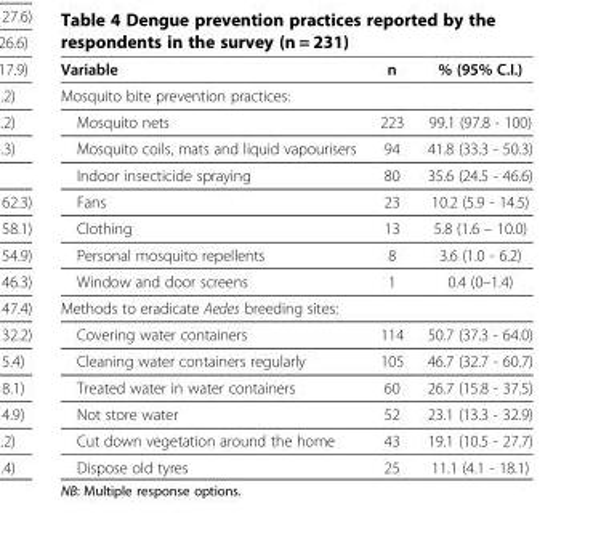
<table><thead><tr><td>Variable</td><td>n</td><td>% (95% C.I.)</td></tr></thead><tbody><tr><td colspan="3">Mosquito bite prevention practices:</td></tr><tr><td>Mosquito nets</td><td>223</td><td>99.1 (97.8 - 100)</td></tr><tr><td>Mosquito coils, mats and liquid vapourisers</td><td>94</td><td>41.8 (33.3 - 50.3)</td></tr><tr><td>Indoor insecticide spraying</td><td>80</td><td>35.6 (24.5 - 46.6)</td></tr><tr><td>Fans</td><td>23</td><td>10.2 (5.9 - 14.5)</td></tr><tr><td>Clothing</td><td>13</td><td>5.8 (1.6 – 10.0)</td></tr><tr><td>Personal mosquito repellents</td><td>8</td><td>3.6 (1.0 - 6.2)</td></tr><tr><td>Window and door screens</td><td>1</td><td>0.4 (0–1.4)</td></tr><tr><td colspan="3">Methods to eradicate Aedes breeding sites:</td></tr><tr><td>Covering water containers</td><td>114</td><td>50.7 (37.3 - 64.0)</td></tr><tr><td>Cleaning water containers regularly</td><td>105</td><td>46.7 (32.7 - 60.7)</td></tr><tr><td>Treated water in water containers</td><td>60</td><td>26.7 (15.8 - 37.5)</td></tr><tr><td>Not store water</td><td>52</td><td>23.1 (13.3 - 32.9)</td></tr><tr><td>Cut down vegetation around the home</td><td>43</td><td>19.1 (10.5 - 27.7)</td></tr><tr><td>Dispose old tyres</td><td>25</td><td>11.1 (4.1 - 18.1)</td></tr></tbody></table>